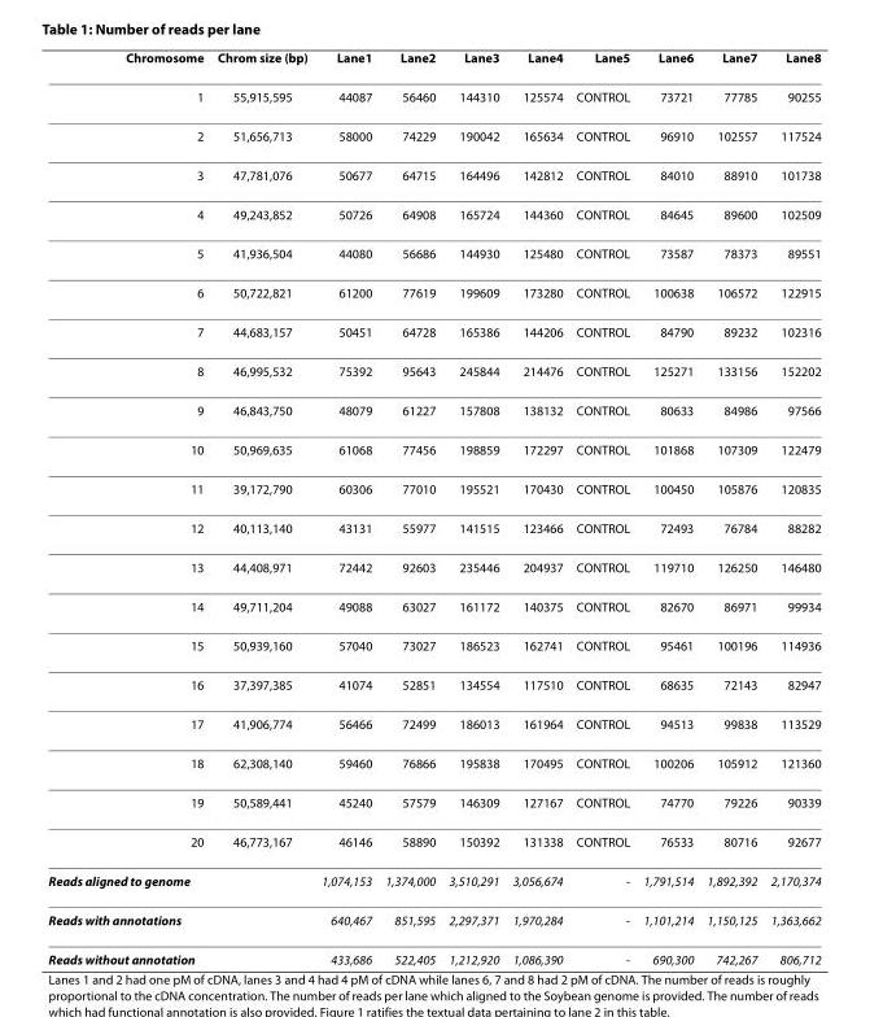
<table><thead><tr><td>Chromosome</td><td>Chrom size (bp)</td><td>Lane1</td><td>Lane2</td><td>Lane3</td><td>Lane4</td><td>Lane5</td><td>Lane6</td><td>Lane7</td><td>Lane8</td></tr></thead><tbody><tr><td>1</td><td>55,915,595</td><td>44087</td><td>56460</td><td>144310</td><td>125574</td><td>CONTROL</td><td>73721</td><td>77785</td><td>90255</td></tr><tr><td>2</td><td>51,656,713</td><td>58000</td><td>74229</td><td>190042</td><td>165634</td><td>CONTROL</td><td>96910</td><td>102557</td><td>117524</td></tr><tr><td>3</td><td>47,781,076</td><td>50677</td><td>64715</td><td>164496</td><td>142812</td><td>CONTROL</td><td>84010</td><td>88910</td><td>101738</td></tr><tr><td>4</td><td>49,243,852</td><td>50726</td><td>64908</td><td>165724</td><td>144360</td><td>CONTROL</td><td>84645</td><td>89600</td><td>102509</td></tr><tr><td>5</td><td>41,936,504</td><td>44080</td><td>56686</td><td>144930</td><td>125480</td><td>CONTROL</td><td>73587</td><td>78373</td><td>89551</td></tr><tr><td>6</td><td>50,722,821</td><td>61200</td><td>77619</td><td>199609</td><td>173280</td><td>CONTROL</td><td>100638</td><td>106572</td><td>122915</td></tr><tr><td>7</td><td>44,683,157</td><td>50451</td><td>64728</td><td>165386</td><td>144206</td><td>CONTROL</td><td>84790</td><td>89232</td><td>102316</td></tr><tr><td>8</td><td>46,995,532</td><td>75392</td><td>95643</td><td>245844</td><td>214476</td><td>CONTROL</td><td>125271</td><td>133156</td><td>152202</td></tr><tr><td>9</td><td>46,843,750</td><td>48079</td><td>61227</td><td>157808</td><td>138132</td><td>CONTROL</td><td>80633</td><td>84986</td><td>97566</td></tr><tr><td>10</td><td>50,969,635</td><td>61068</td><td>77456</td><td>198859</td><td>172297</td><td>CONTROL</td><td>101868</td><td>107309</td><td>122479</td></tr><tr><td>11</td><td>39,172,790</td><td>60306</td><td>77010</td><td>195521</td><td>170430</td><td>CONTROL</td><td>100450</td><td>105876</td><td>120835</td></tr><tr><td>12</td><td>40,113,140</td><td>43131</td><td>55977</td><td>141515</td><td>123466</td><td>CONTROL</td><td>72493</td><td>76784</td><td>88282</td></tr><tr><td>13</td><td>44,408,971</td><td>72442</td><td>92603</td><td>235446</td><td>204937</td><td>CONTROL</td><td>119710</td><td>126250</td><td>146480</td></tr><tr><td>14</td><td>49,711,204</td><td>49088</td><td>63027</td><td>161172</td><td>140375</td><td>CONTROL</td><td>82670</td><td>86971</td><td>99934</td></tr><tr><td>15</td><td>50,939,160</td><td>57040</td><td>73027</td><td>186523</td><td>162741</td><td>CONTROL</td><td>95461</td><td>100196</td><td>114936</td></tr><tr><td>16</td><td>37,397,385</td><td>41074</td><td>52851</td><td>134554</td><td>117510</td><td>CONTROL</td><td>68635</td><td>72143</td><td>82947</td></tr><tr><td>17</td><td>41,906,774</td><td>56466</td><td>72499</td><td>186013</td><td>161964</td><td>CONTROL</td><td>94513</td><td>99838</td><td>113529</td></tr><tr><td>18</td><td>62,308,140</td><td>59460</td><td>76866</td><td>195838</td><td>170495</td><td>CONTROL</td><td>100206</td><td>105912</td><td>121360</td></tr><tr><td>19</td><td>50,589,441</td><td>45240</td><td>57579</td><td>146309</td><td>127167</td><td>CONTROL</td><td>74770</td><td>79226</td><td>90339</td></tr><tr><td>20</td><td>46,773,167</td><td>46146</td><td>58890</td><td>150392</td><td>131338</td><td>CONTROL</td><td>76533</td><td>80716</td><td>92677</td></tr><tr><td>Reads aligned to genome</td><td></td><td>1,074,153</td><td>1,374,000</td><td>3,510,291</td><td>3,056,674</td><td>-</td><td>1,791,514</td><td>1,892,392</td><td>2,170,374</td></tr><tr><td>Reads with annotations</td><td></td><td>640,467</td><td>851,595</td><td>2,297,371</td><td>1,970,284</td><td>-</td><td>1,101,214</td><td>1,150,125</td><td>1,363,662</td></tr><tr><td>Reads without annotation</td><td></td><td>433,686</td><td>522,405</td><td>1,212,920</td><td>1,086,390</td><td>-</td><td>690,300</td><td>742,267</td><td>806,712</td></tr></tbody></table>